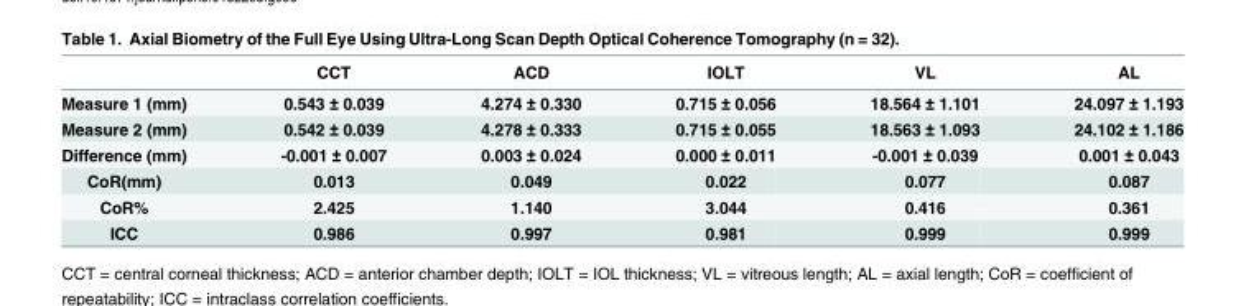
<table><thead><tr><td></td><td>CCT</td><td>ACD</td><td>IOLT</td><td>VL</td><td>AL</td></tr></thead><tbody><tr><td>Measure 1 (mm)</td><td>0.543 ± 0.039</td><td>4.274 ± 0.330</td><td>0.715 ± 0.056</td><td>18.564 ± 1.101</td><td>24.097 ± 1.193</td></tr><tr><td>Measure 2 (mm)</td><td>0.542 ± 0.039</td><td>4.278 ± 0.333</td><td>0.715 ± 0.055</td><td>18.563 ± 1.093</td><td>24.102 ± 1.186</td></tr><tr><td>Difference (mm)</td><td>-0.001 ± 0.007</td><td>0.003 ± 0.024</td><td>0.000 ± 0.011</td><td>-0.001 ± 0.039</td><td>0.001 ± 0.043</td></tr><tr><td>CoR(mm)</td><td>0.013</td><td>0.049</td><td>0.022</td><td>0.077</td><td>0.087</td></tr><tr><td>CoR%</td><td>2.425</td><td>1.140</td><td>3.044</td><td>0.416</td><td>0.361</td></tr><tr><td>ICC</td><td>0.986</td><td>0.997</td><td>0.981</td><td>0.999</td><td>0.999</td></tr></tbody></table>